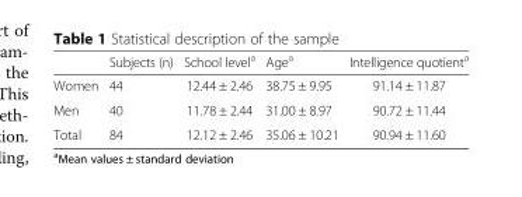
<table><thead><tr><td></td><td>Subjects (n)</td><td>School level<sup>a</sup></td><td>Age<sup>a</sup></td><td>Intelligence quotient<sup>a</sup></td></tr></thead><tbody><tr><td>Women</td><td>44</td><td>12.44 ± 2.46</td><td>38.75 ± 9.95</td><td>91.14 ± 11.87</td></tr><tr><td>Men</td><td>40</td><td>11.78 ± 2.44</td><td>31.00 ± 8.97</td><td>90.72 ± 11.44</td></tr><tr><td>Total</td><td>84</td><td>12.12 ± 2.46</td><td>35.06 ± 10.21</td><td>90.94 ± 11.60</td></tr></tbody></table>